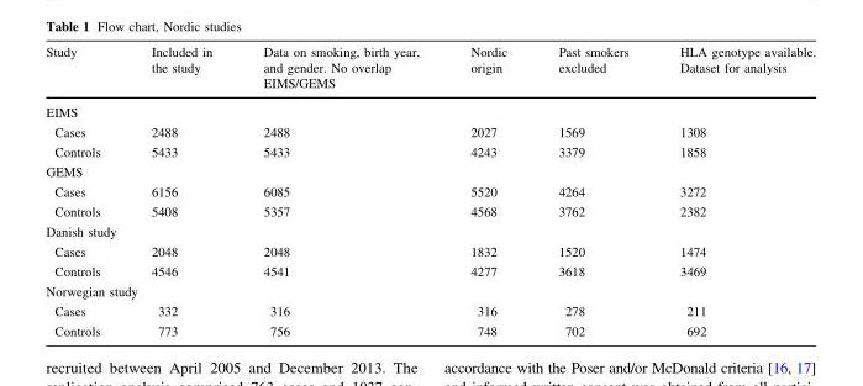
<table><thead><tr><td>Study</td><td>Included in the study</td><td>Data on smoking, birth year, and gender. No overlap EIMS/GEMS</td><td>Nordic origin</td><td>Past smokers excluded</td><td>HLA genotype available. Dataset for analysis</td></tr></thead><tbody><tr><td colspan="6">EIMS</td></tr><tr><td>Cases</td><td>2488</td><td>2488</td><td>2027</td><td>1569</td><td>1308</td></tr><tr><td>Controls</td><td>5433</td><td>5433</td><td>4243</td><td>3379</td><td>1858</td></tr><tr><td colspan="6">GEMS</td></tr><tr><td>Cases</td><td>6156</td><td>6085</td><td>5520</td><td>4264</td><td>3272</td></tr><tr><td>Controls</td><td>5408</td><td>5357</td><td>4568</td><td>3762</td><td>2382</td></tr><tr><td colspan="6">Danish study</td></tr><tr><td>Cases</td><td>2048</td><td>2048</td><td>1832</td><td>1520</td><td>1474</td></tr><tr><td>Controls</td><td>4546</td><td>4541</td><td>4277</td><td>3618</td><td>3469</td></tr><tr><td colspan="6">Norwegian study</td></tr><tr><td>Cases</td><td>332</td><td>316</td><td>316</td><td>278</td><td>211</td></tr><tr><td>Controls</td><td>773</td><td>756</td><td>748</td><td>702</td><td>692</td></tr></tbody></table>